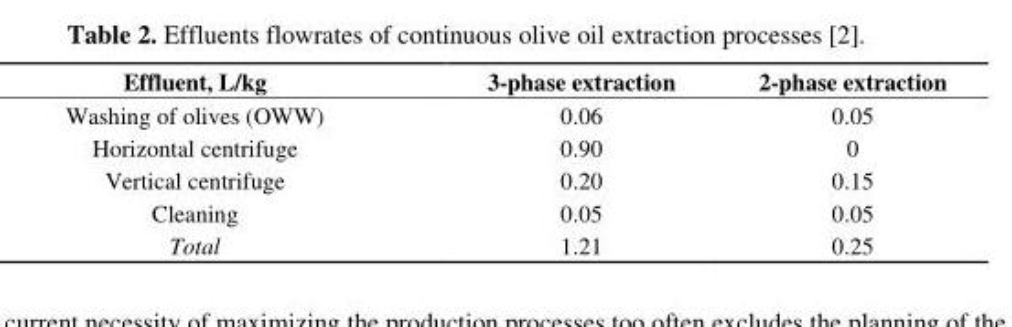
<table><thead><tr><td>Effluent, L/kg</td><td>3-phase extraction</td><td>2-phase extraction</td></tr></thead><tbody><tr><td>Washing of olives (OWW)</td><td>0.06</td><td>0.05</td></tr><tr><td>Horizontal centrifuge</td><td>0.90</td><td>0</td></tr><tr><td>Vertical centrifuge</td><td>0.20</td><td>0.15</td></tr><tr><td>Cleaning</td><td>0.05</td><td>0.05</td></tr><tr><td>Total</td><td>1.21</td><td>0.25</td></tr></tbody></table>